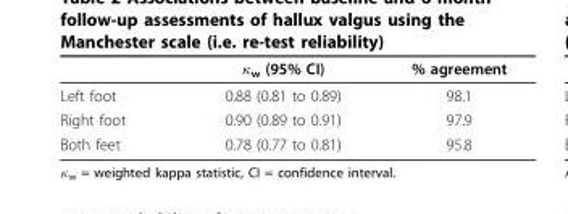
<table><thead><tr><td></td><td>κ<sub>w</sub> (95% CI)</td><td>% agreement</td></tr></thead><tbody><tr><td>Left foot</td><td>0.88 (0.81 to 0.89)</td><td>98.1</td></tr><tr><td>Right foot</td><td>0.90 (0.89 to 0.91)</td><td>97.9</td></tr><tr><td>Both feet</td><td>0.78 (0.77 to 0.81)</td><td>95.8</td></tr></tbody></table>